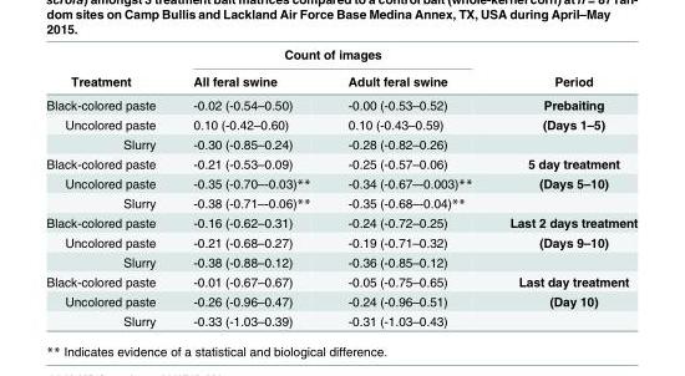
<table><thead><tr><td rowspan="2">Treatment</td><td colspan="2">Count of images</td><td rowspan="2">Period</td></tr><tr><td>All feral swine</td><td>Adult feral swine</td></tr></thead><tbody><tr><td>Black-colored paste</td><td>-0.02 (-0.54–0.50)</td><td>-0.00 (-0.53–0.52)</td><td>Prebaiting</td></tr><tr><td>Uncolored paste</td><td>0.10 (-0.42–0.60)</td><td>0.10 (-0.43–0.59)</td><td>(Days 1–5)</td></tr><tr><td>Slurry</td><td>-0.30 (-0.85–0.24)</td><td>-0.28 (-0.82–0.26)</td><td></td></tr><tr><td>Black-colored paste</td><td>-0.21 (-0.53–0.09)</td><td>-0.25 (-0.57–0.06)</td><td>5 day treatment</td></tr><tr><td>Uncolored paste</td><td>-0.35 (-0.70–-0.03)**</td><td>-0.34 (-0.67–-0.003)**</td><td>(Days 5–10)</td></tr><tr><td>Slurry</td><td>-0.38 (-0.71–-0.06)**</td><td>-0.35 (-0.68–-0.04)**</td><td></td></tr><tr><td>Black-colored paste</td><td>-0.16 (-0.62–0.31)</td><td>-0.24 (-0.72–0.25)</td><td>Last 2 days treatment</td></tr><tr><td>Uncolored paste</td><td>-0.21 (-0.68–0.27)</td><td>-0.19 (-0.71–0.32)</td><td>(Days 9–10)</td></tr><tr><td>Slurry</td><td>-0.38 (-0.88–0.12)</td><td>-0.36 (-0.85–0.12)</td><td></td></tr><tr><td>Black-colored paste</td><td>-0.01 (-0.67–0.67)</td><td>-0.05 (-0.75–0.65)</td><td>Last day treatment</td></tr><tr><td>Uncolored paste</td><td>-0.26 (-0.96–0.47)</td><td>-0.24 (-0.96–0.51)</td><td>(Day 10)</td></tr><tr><td>Slurry</td><td>-0.33 (-1.03–0.39)</td><td>-0.31 (-1.03–0.43)</td><td></td></tr></tbody></table>